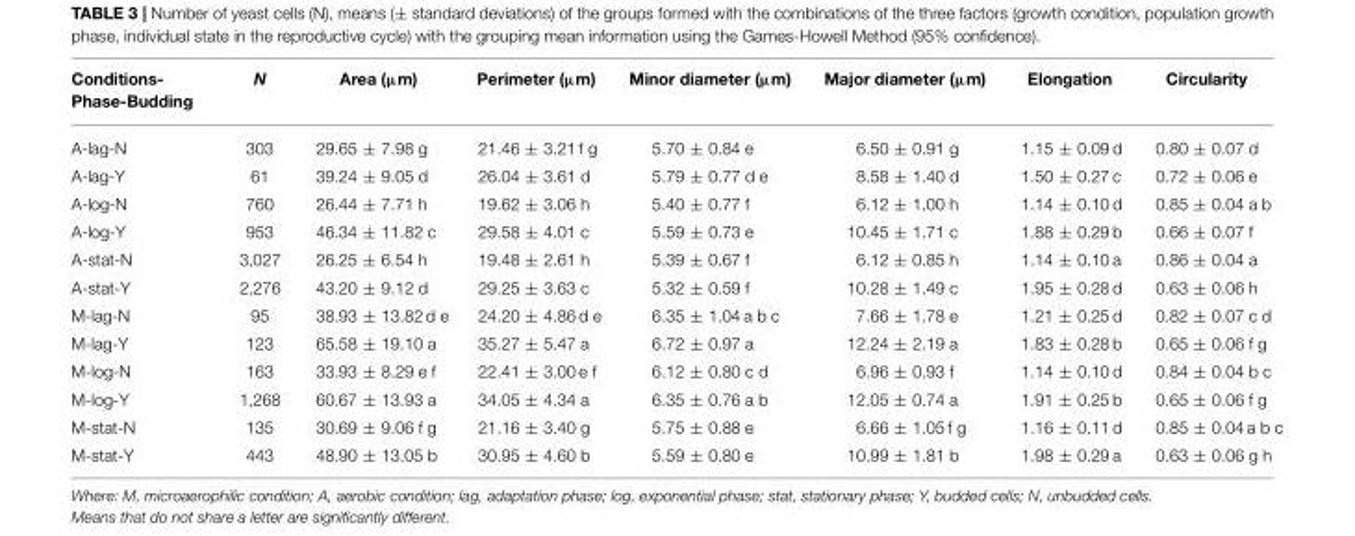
<table><thead><tr><td>Conditions- Phase-Budding</td><td>N</td><td>Area (µm)</td><td>Perimeter (µm)</td><td>Minor diameter (µm)</td><td>Major diameter (µm)</td><td>Elongation</td><td>Circularity</td></tr></thead><tbody><tr><td>A-lag-N</td><td>303</td><td>29.65 ± 7.98 g</td><td>21.46 ± 3.21 f g</td><td>5.70 ± 0.84 e</td><td>6.50 ± 0.91 g</td><td>1.15 ± 0.09 d</td><td>0.80 ± 0.07 d</td></tr><tr><td>A-lag-Y</td><td>61</td><td>39.24 ± 9.05 d</td><td>26.04 ± 3.61 d</td><td>5.79 ± 0.77 d e</td><td>8.58 ± 1.40 d</td><td>1.50 ± 0.27 c</td><td>0.72 ± 0.06 e</td></tr><tr><td>A-log-N</td><td>760</td><td>26.44 ± 7.71 h</td><td>19.62 ± 3.06 h</td><td>5.40 ± 0.77 f</td><td>6.12 ± 1.00 h</td><td>1.14 ± 0.10 d</td><td>0.85 ± 0.04 a b</td></tr><tr><td>A-log-Y</td><td>953</td><td>46.34 ± 11.82 c</td><td>29.58 ± 4.01 c</td><td>5.59 ± 0.73 e</td><td>10.45 ± 1.71 c</td><td>1.88 ± 0.29 b</td><td>0.66 ± 0.07 f</td></tr><tr><td>A-stat-N</td><td>3,027</td><td>26.25 ± 6.54 h</td><td>19.48 ± 2.61 h</td><td>5.39 ± 0.67 f</td><td>6.12 ± 0.85 h</td><td>1.14 ± 0.10 a</td><td>0.86 ± 0.04 a</td></tr><tr><td>A-stat-Y</td><td>2,276</td><td>43.20 ± 9.12 d</td><td>29.25 ± 3.63 c</td><td>5.32 ± 0.59 f</td><td>10.28 ± 1.49 c</td><td>1.95 ± 0.28 d</td><td>0.63 ± 0.06 h</td></tr><tr><td>M-lag-N</td><td>95</td><td>38.93 ± 13.82 d e</td><td>24.20 ± 4.86 d e</td><td>6.35 ± 1.04 a b c</td><td>7.66 ± 1.78 e</td><td>1.21 ± 0.25 d</td><td>0.82 ± 0.07 c d</td></tr><tr><td>M-lag-Y</td><td>123</td><td>65.58 ± 19.10 a</td><td>35.27 ± 5.47 a</td><td>6.72 ± 0.97 a</td><td>12.24 ± 2.19 a</td><td>1.83 ± 0.28 b</td><td>0.65 ± 0.06 f g</td></tr><tr><td>M-log-N</td><td>163</td><td>33.93 ± 8.29 e f</td><td>22.41 ± 3.00 e f</td><td>6.12 ± 0.80 c d</td><td>6.96 ± 0.93 f</td><td>1.14 ± 0.10 d</td><td>0.84 ± 0.04 b c</td></tr><tr><td>M-log-Y</td><td>1,268</td><td>60.67 ± 13.93 a</td><td>34.05 ± 4.34 a</td><td>6.35 ± 0.76 a b</td><td>12.05 ± 0.74 a</td><td>1.91 ± 0.25 b</td><td>0.65 ± 0.06 f g</td></tr><tr><td>M-stat-N</td><td>135</td><td>30.69 ± 9.06 f g</td><td>21.16 ± 3.40 g</td><td>5.75 ± 0.88 e</td><td>6.66 ± 1.05 f g</td><td>1.16 ± 0.11 d</td><td>0.85 ± 0.04 a b c</td></tr><tr><td>M-stat-Y</td><td>443</td><td>48.90 ± 13.05 b</td><td>30.95 ± 4.60 b</td><td>5.59 ± 0.80 e</td><td>10.99 ± 1.81 b</td><td>1.98 ± 0.29 a</td><td>0.63 ± 0.06 g h</td></tr></tbody></table>